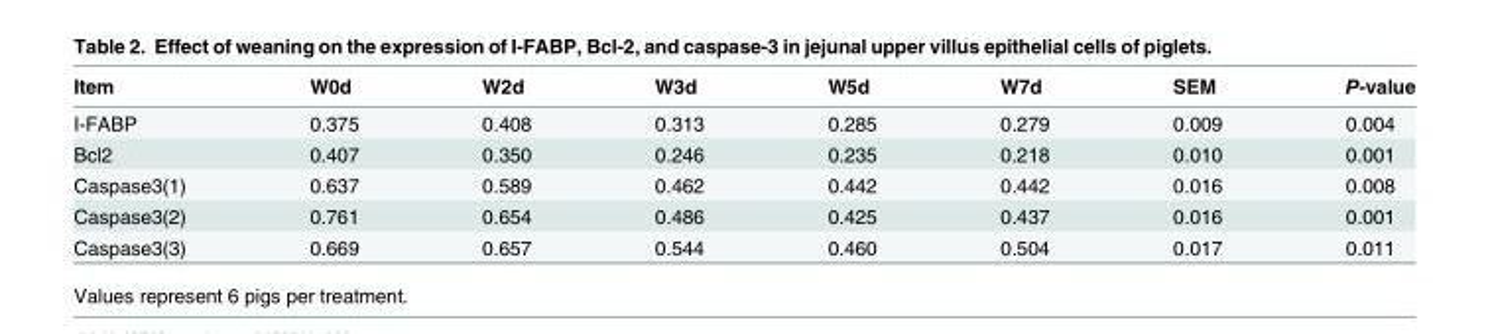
<table><thead><tr><td>Item</td><td>W0d</td><td>W2d</td><td>W3d</td><td>W5d</td><td>W7d</td><td>SEM</td><td>P-value</td></tr></thead><tbody><tr><td>I-FABP</td><td>0.375</td><td>0.408</td><td>0.313</td><td>0.285</td><td>0.279</td><td>0.009</td><td>0.004</td></tr><tr><td>Bcl2</td><td>0.407</td><td>0.350</td><td>0.246</td><td>0.235</td><td>0.218</td><td>0.010</td><td>0.001</td></tr><tr><td>Caspase3(1)</td><td>0.637</td><td>0.589</td><td>0.462</td><td>0.442</td><td>0.442</td><td>0.016</td><td>0.008</td></tr><tr><td>Caspase3(2)</td><td>0.761</td><td>0.654</td><td>0.486</td><td>0.425</td><td>0.437</td><td>0.016</td><td>0.001</td></tr><tr><td>Caspase3(3)</td><td>0.669</td><td>0.657</td><td>0.544</td><td>0.460</td><td>0.504</td><td>0.017</td><td>0.011</td></tr></tbody></table>